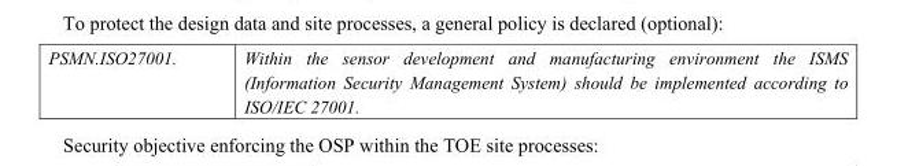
<table><tbody><tr><td>PSMN.ISO27001.</td><td>Within the sensor development and manufacturing environment the ISMS (Information Security Management System) should be implemented according to ISO/IEC 27001.</td></tr></tbody></table>